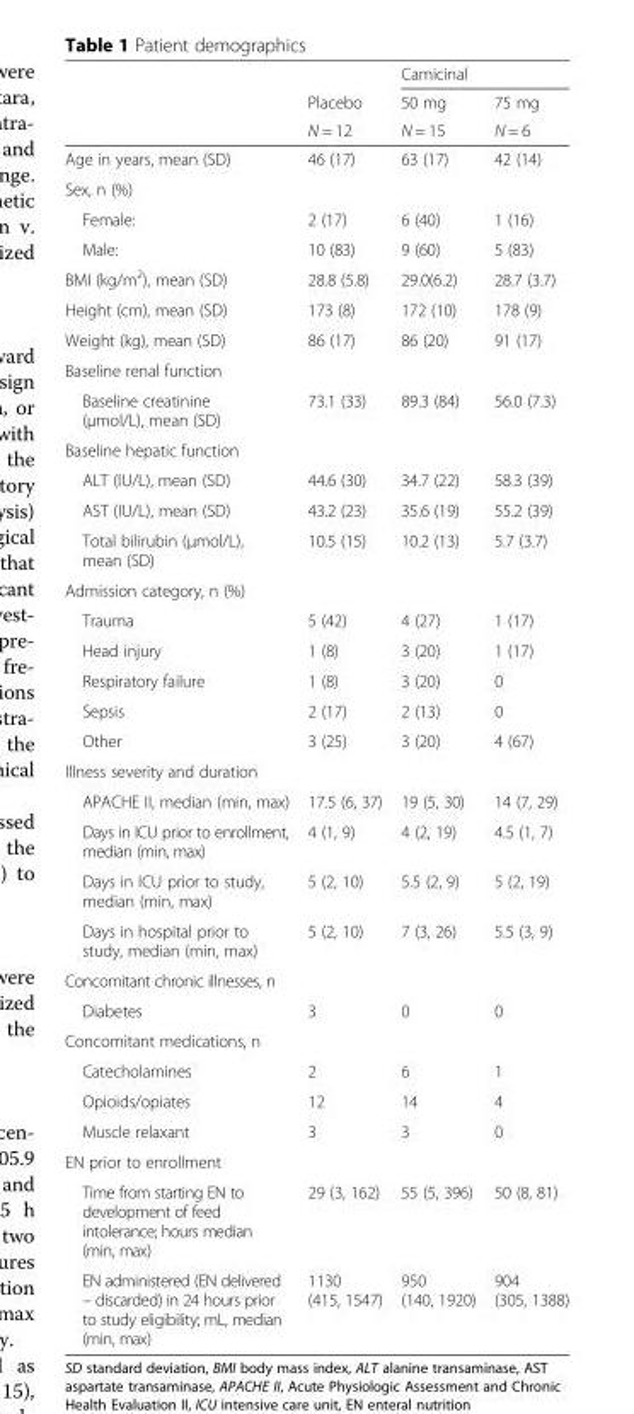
<table><thead><tr><td rowspan="3"></td><td rowspan="3">Placebo N = 12</td><td colspan="2">Camicinal</td></tr><tr><td rowspan="2">50 mg N = 15</td><td rowspan="2">75 mg N = 6</td></tr><tr></tr></thead><tbody><tr><td>Age in years, mean (SD)</td><td>46 (17)</td><td>63 (17)</td><td>42 (14)</td></tr><tr><td colspan="4">Sex, n (%)</td></tr><tr><td>Female:</td><td>2 (17)</td><td>6 (40)</td><td>1 (16)</td></tr><tr><td>Male:</td><td>10 (83)</td><td>9 (60)</td><td>5 (83)</td></tr><tr><td>BMI (kg/m<sup>2</sup>), mean (SD)</td><td>28.8 (5.8)</td><td>29.0(6.2)</td><td>28.7 (3.7)</td></tr><tr><td>Height (cm), mean (SD)</td><td>173 (8)</td><td>172 (10)</td><td>178 (9)</td></tr><tr><td>Weight (kg), mean (SD)</td><td>86 (17)</td><td>86 (20)</td><td>91 (17)</td></tr><tr><td colspan="4">Baseline renal function</td></tr><tr><td>Baseline creatinine (μmol/L), mean (SD)</td><td>73.1 (33)</td><td>89.3 (84)</td><td>56.0 (7.3)</td></tr><tr><td colspan="4">Baseline hepatic function</td></tr><tr><td>ALT (IU/L), mean (SD)</td><td>44.6 (30)</td><td>34.7 (22)</td><td>58.3 (39)</td></tr><tr><td>AST (IU/L), mean (SD)</td><td>43.2 (23)</td><td>35.6 (19)</td><td>55.2 (39)</td></tr><tr><td>Total bilirubin (μmol/L), mean (SD)</td><td>10.5 (15)</td><td>10.2 (13)</td><td>5.7 (3.7)</td></tr><tr><td colspan="4">Admission category, n (%)</td></tr><tr><td>Trauma</td><td>5 (42)</td><td>4 (27)</td><td>1 (17)</td></tr><tr><td>Head injury</td><td>1 (8)</td><td>3 (20)</td><td>1 (17)</td></tr><tr><td>Respiratory failure</td><td>1 (8)</td><td>3 (20)</td><td>0</td></tr><tr><td>Sepsis</td><td>2 (17)</td><td>2 (13)</td><td>0</td></tr><tr><td>Other</td><td>3 (25)</td><td>3 (20)</td><td>4 (67)</td></tr><tr><td colspan="4">Illness severity and duration</td></tr><tr><td>APACHE II, median (min, max)</td><td>17.5 (6, 37)</td><td>19 (5, 30)</td><td>14 (7, 29)</td></tr><tr><td>Days in ICU prior to enrollment, median (min, max)</td><td>4 (1, 9)</td><td>4 (2, 19)</td><td>4.5 (1, 7)</td></tr><tr><td>Days in ICU prior to study, median (min, max)</td><td>5 (2, 10)</td><td>5.5 (2, 9)</td><td>5 (2, 19)</td></tr><tr><td>Days in hospital prior to study, median (min, max)</td><td>5 (2, 10)</td><td>7 (3, 26)</td><td>5.5 (3, 9)</td></tr><tr><td colspan="4">Concomitant chronic illnesses, n</td></tr><tr><td>Diabetes</td><td>3</td><td>0</td><td>0</td></tr><tr><td colspan="4">Concomitant medications, n</td></tr><tr><td>Catecholamines</td><td>2</td><td>6</td><td>1</td></tr><tr><td>Opioids/opiates</td><td>12</td><td>14</td><td>4</td></tr><tr><td>Muscle relaxant</td><td>3</td><td>3</td><td>0</td></tr><tr><td colspan="4">EN prior to enrollment</td></tr><tr><td>Time from starting EN to development of feed intolerance; hours median (min, max)</td><td>29 (3, 162)</td><td>55 (5, 396)</td><td>50 (8, 81)</td></tr><tr><td>EN administered (EN delivered – discarded) in 24 hours prior to study eligibility; mL, median (min, max)</td><td>1130 (415, 1547)</td><td>950 (140, 1920)</td><td>904 (305, 1388)</td></tr></tbody></table>